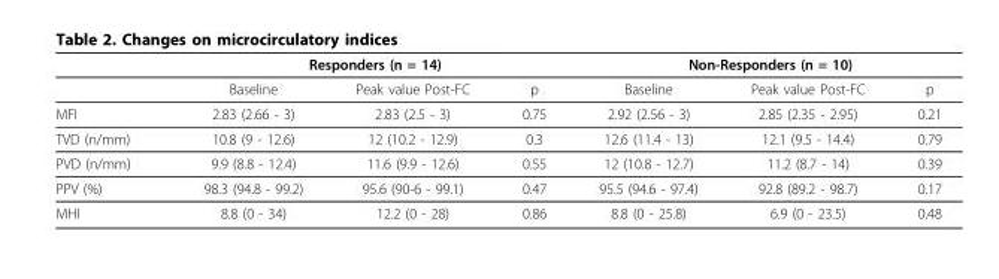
<table><thead><tr><td rowspan="2"></td><td colspan="3">Responders (n = 14)</td><td colspan="3">Non-Responders (n = 10)</td></tr><tr><td>Baseline</td><td>Peak value Post-FC</td><td>p</td><td>Baseline</td><td>Peak value Post-FC</td><td>p</td></tr></thead><tbody><tr><td>MFI</td><td>2.83 (2.66 - 3)</td><td>2.83 (2.5 - 3)</td><td>0.75</td><td>2.92 (2.56 - 3)</td><td>2.85 (2.35 - 2.95)</td><td>0.21</td></tr><tr><td>TVD (n/mm)</td><td>10.8 (9 - 12.6)</td><td>12 (10.2 - 12.9)</td><td>0.3</td><td>12.6 (11.4 - 13)</td><td>12.1 (9.5 - 14.4)</td><td>0.79</td></tr><tr><td>PVD (n/mm)</td><td>9.9 (8.8 - 12.4)</td><td>11.6 (9.9 - 12.6)</td><td>0.55</td><td>12 (10.8 - 12.7)</td><td>11.2 (8.7 - 14)</td><td>0.39</td></tr><tr><td>PPV (%)</td><td>98.3 (94.8 - 99.2)</td><td>95.6 (90-6 - 99.1)</td><td>0.47</td><td>95.5 (94.6 - 97.4)</td><td>92.8 (89.2 - 98.7)</td><td>0.17</td></tr><tr><td>MHI</td><td>8.8 (0 - 34)</td><td>12.2 (0 - 28)</td><td>0.86</td><td>8.8 (0 - 25.8)</td><td>6.9 (0 - 23.5)</td><td>0.48</td></tr></tbody></table>